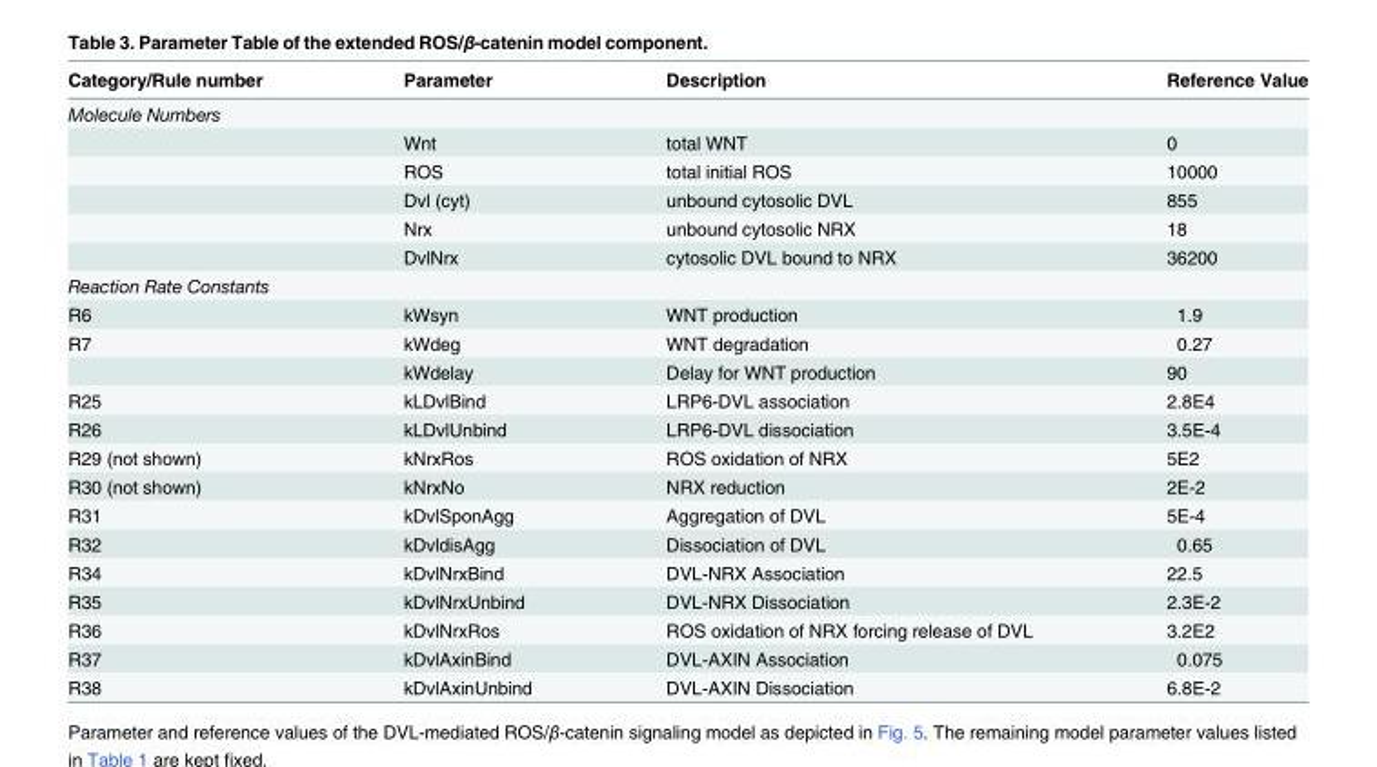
<table><thead><tr><td>Category/Rule number</td><td>Parameter</td><td>Description</td><td>Reference Value</td></tr></thead><tbody><tr><td colspan="4">Molecule Numbers</td></tr><tr><td></td><td>Wnt</td><td>total WNT</td><td>0</td></tr><tr><td></td><td>ROS</td><td>total initial ROS</td><td>10000</td></tr><tr><td></td><td>Dvl (cyt)</td><td>unbound cytosolic DVL</td><td>855</td></tr><tr><td></td><td>Nrx</td><td>unbound cytosolic NRX</td><td>18</td></tr><tr><td></td><td>DvlNrx</td><td>cytosolic DVL bound to NRX</td><td>36200</td></tr><tr><td colspan="4">Reaction Rate Constants</td></tr><tr><td>R6</td><td>kWsyn</td><td>WNT production</td><td>1.9</td></tr><tr><td rowspan="2">R7</td><td>kWdeg</td><td>WNT degradation</td><td>0.27</td></tr><tr><td>kWdelay</td><td>Delay for WNT production</td><td>90</td></tr><tr><td>R25</td><td>kLDvlBind</td><td>LRP6-DVL association</td><td>2.8E4</td></tr><tr><td>R26</td><td>kLDvlUnbind</td><td>LRP6-DVL dissociation</td><td>3.5E-4</td></tr><tr><td>R29 (not shown)</td><td>kNrxRos</td><td>ROS oxidation of NRX</td><td>5E2</td></tr><tr><td>R30 (not shown)</td><td>kNrxNo</td><td>NRX reduction</td><td>2E-2</td></tr><tr><td>R31</td><td>kDvlSponAgg</td><td>Aggregation of DVL</td><td>5E-4</td></tr><tr><td>R32</td><td>kDvldisAgg</td><td>Dissociation of DVL</td><td>0.65</td></tr><tr><td>R34</td><td>kDvlNrxBind</td><td>DVL-NRX Association</td><td>22.5</td></tr><tr><td>R35</td><td>kDvlNrxUnbind</td><td>DVL-NRX Dissociation</td><td>2.3E-2</td></tr><tr><td>R36</td><td>kDvlNrxRos</td><td>ROS oxidation of NRX forcing release of DVL</td><td>3.2E2</td></tr><tr><td>R37</td><td>kDvlAxinBind</td><td>DVL-AXIN Association</td><td>0.075</td></tr><tr><td>R38</td><td>kDvlAxinUnbind</td><td>DVL-AXIN Dissociation</td><td>6.8E-2</td></tr></tbody></table>